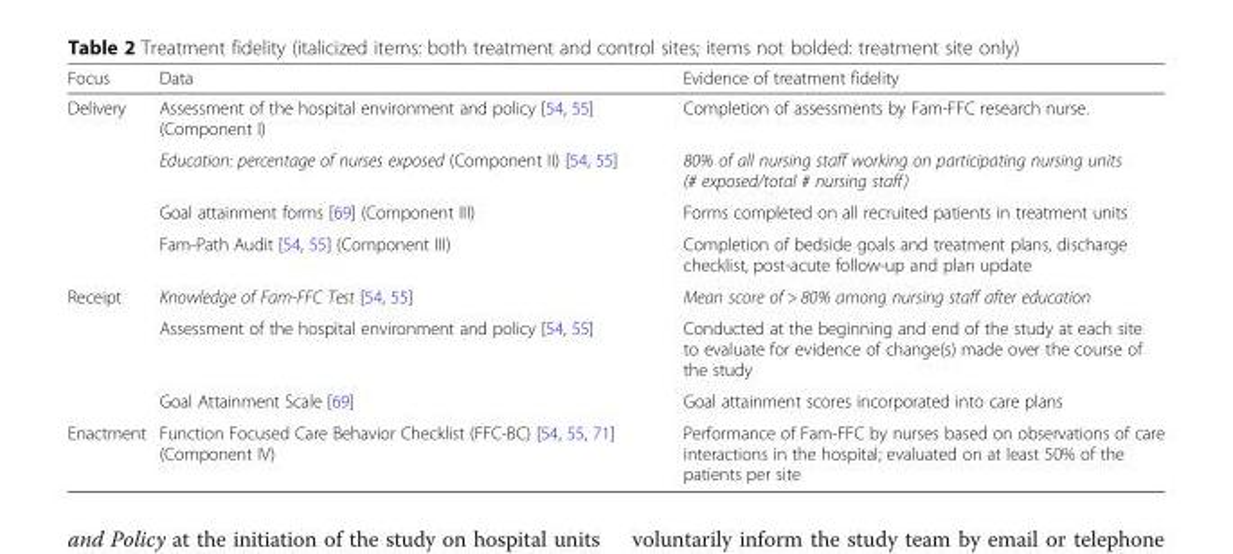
<table><thead><tr><td>Focus</td><td>Data</td><td>Evidence of treatment fidelity</td></tr></thead><tbody><tr><td rowspan="4">Delivery</td><td>Assessment of the hospital environment and policy [54, 55] (Component I)</td><td>Completion of assessments by Fam-FFC research nurse.</td></tr><tr><td>Education: percentage of nurses exposed (Component II) [54, 55]</td><td>80% of all nursing staff working on participating nursing units (# exposed/total # nursing staff)</td></tr><tr><td>Goal attainment forms [69] (Component III)</td><td>Forms completed on all recruited patients in treatment units</td></tr><tr><td>Fam-Path Audit [54, 55] (Component III)</td><td>Completion of bedside goals and treatment plans, discharge checklist, post-acute follow-up and plan update</td></tr><tr><td rowspan="3">Receipt</td><td>Knowledge of Fam-FFC Test [54, 55]</td><td>Mean score of &gt; 80% among nursing staff after education</td></tr><tr><td>Assessment of the hospital environment and policy [54, 55]</td><td>Conducted at the beginning and end of the study at each site to evaluate for evidence of change(s) made over the course of the study</td></tr><tr><td>Goal Attainment Scale [69]</td><td>Goal attainment scores incorporated into care plans</td></tr><tr><td>Enactment</td><td>Function Focused Care Behavior Checklist (FFC-BC) [54, 55, 71] (Component IV)</td><td>Performance of Fam-FFC by nurses based on observations of care interactions in the hospital; evaluated on at least 50% of the patients per site</td></tr></tbody></table>